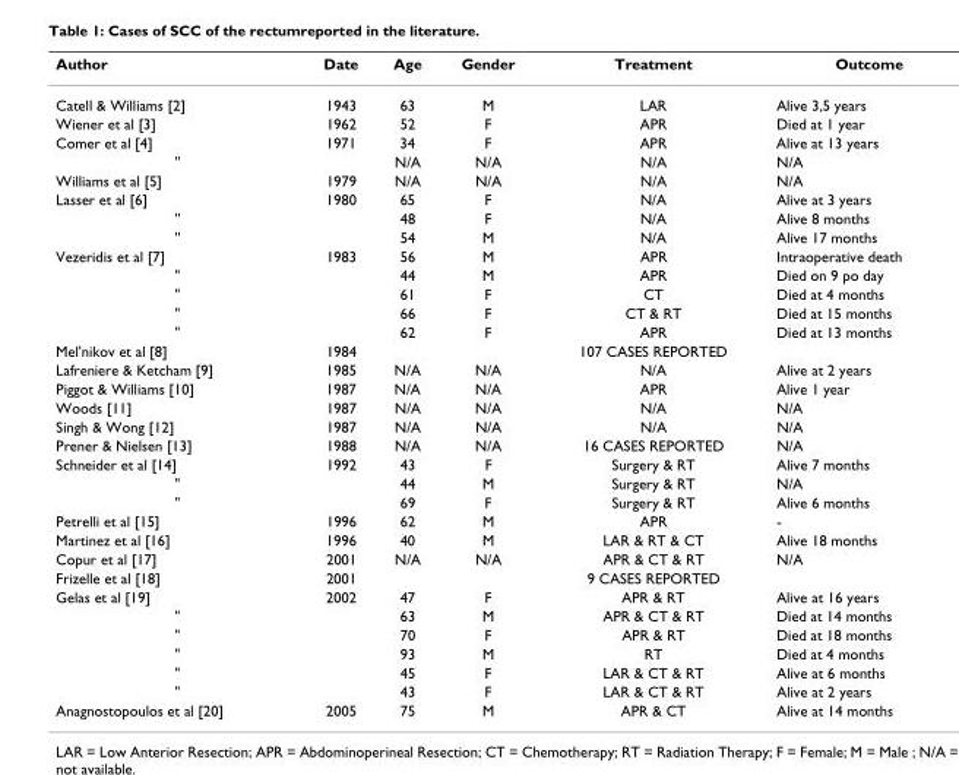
<table><thead><tr><td>Author</td><td>Date</td><td>Age</td><td>Gender</td><td>Treatment</td><td>Outcome</td></tr></thead><tbody><tr><td>Catell &amp; Williams [2]</td><td>1943</td><td>63</td><td>M</td><td>LAR</td><td>Alive 3,5 years</td></tr><tr><td>Wiener et al [3]</td><td>1962</td><td>52</td><td>F</td><td>APR</td><td>Died at 1 year</td></tr><tr><td>Comer et al [4]</td><td>1971</td><td>34</td><td>F</td><td>APR</td><td>Alive at 13 years</td></tr><tr><td>&#x27;&#x27;</td><td></td><td>N/A</td><td>N/A</td><td>N/A</td><td>N/A</td></tr><tr><td>Williams et al [5]</td><td>1979</td><td>N/A</td><td>N/A</td><td>N/A</td><td>N/A</td></tr><tr><td>Lasser et al [6]</td><td>1980</td><td>65</td><td>F</td><td>N/A</td><td>Alive at 3 years</td></tr><tr><td>&#x27;&#x27;</td><td></td><td>48</td><td>F</td><td>N/A</td><td>Alive 8 months</td></tr><tr><td>&#x27;&#x27;</td><td></td><td>54</td><td>M</td><td>N/A</td><td>Alive 17 months</td></tr><tr><td>Vezeridis et al [7]</td><td>1983</td><td>56</td><td>M</td><td>APR</td><td>Intraoperative death</td></tr><tr><td>&quot;</td><td></td><td>44</td><td>M</td><td>APR</td><td>Died on 9 po day</td></tr><tr><td>&quot;</td><td></td><td>61</td><td>F</td><td>CT</td><td>Died at 4 months</td></tr><tr><td>&quot;</td><td></td><td>66</td><td>F</td><td>CT &amp; RT</td><td>Died at 15 months</td></tr><tr><td>&quot;</td><td></td><td>62</td><td>F</td><td>APR</td><td>Died at 13 months</td></tr><tr><td>Mel&#x27;nikov et al [8]</td><td>1984</td><td></td><td></td><td>107 CASES REPORTED</td><td></td></tr><tr><td>Lafreniere &amp; Ketcham [9]</td><td>1985</td><td>N/A</td><td>N/A</td><td>N/A</td><td>Alive at 2 years</td></tr><tr><td>Piggot &amp; Williams [10]</td><td>1987</td><td>N/A</td><td>N/A</td><td>APR</td><td>Alive 1 year</td></tr><tr><td>Woods [11]</td><td>1987</td><td>N/A</td><td>N/A</td><td>N/A</td><td>N/A</td></tr><tr><td>Singh &amp; Wong [12]</td><td>1987</td><td>N/A</td><td>N/A</td><td>N/A</td><td>N/A</td></tr><tr><td>Prener &amp; Nielsen [13]</td><td>1988</td><td>N/A</td><td>N/A</td><td>16 CASES REPORTED</td><td>N/A</td></tr><tr><td>Schneider et al [14]</td><td>1992</td><td>43</td><td>F</td><td>Surgery &amp; RT</td><td>Alive 7 months</td></tr><tr><td>&quot;</td><td></td><td>44</td><td>M</td><td>Surgery &amp; RT</td><td>N/A</td></tr><tr><td>&quot;</td><td></td><td>69</td><td>F</td><td>Surgery &amp; RT</td><td>Alive 6 months</td></tr><tr><td>Petrelli et al [15]</td><td>1996</td><td>62</td><td>M</td><td>APR</td><td>-</td></tr><tr><td>Martinez et al [16]</td><td>1996</td><td>40</td><td>M</td><td>LAR &amp; RT &amp; CT</td><td>Alive 18 months</td></tr><tr><td>Copur et al [17]</td><td>2001</td><td>N/A</td><td>N/A</td><td>APR &amp; CT &amp; RT</td><td>N/A</td></tr><tr><td>Frizelle et al [18]</td><td>2001</td><td></td><td></td><td>9 CASES REPORTED</td><td></td></tr><tr><td>Gelas et al [19]</td><td>2002</td><td>47</td><td>F</td><td>APR &amp; RT</td><td>Alive at 16 years</td></tr><tr><td>&quot;</td><td></td><td>63</td><td>M</td><td>APR &amp; CT &amp; RT</td><td>Died at 14 months</td></tr><tr><td>&quot;</td><td></td><td>70</td><td>F</td><td>APR &amp; RT</td><td>Died at 18 months</td></tr><tr><td>&quot;</td><td></td><td>93</td><td>M</td><td>RT</td><td>Died at 4 months</td></tr><tr><td>&quot;</td><td></td><td>45</td><td>F</td><td>LAR &amp; CT &amp; RT</td><td>Alive at 6 months</td></tr><tr><td>&quot;</td><td></td><td>43</td><td>F</td><td>LAR &amp; CT &amp; RT</td><td>Alive at 2 years</td></tr><tr><td>Anagnostopoulos et al [20]</td><td>2005</td><td>75</td><td>M</td><td>APR &amp; CT</td><td>Alive at 14 months</td></tr></tbody></table>